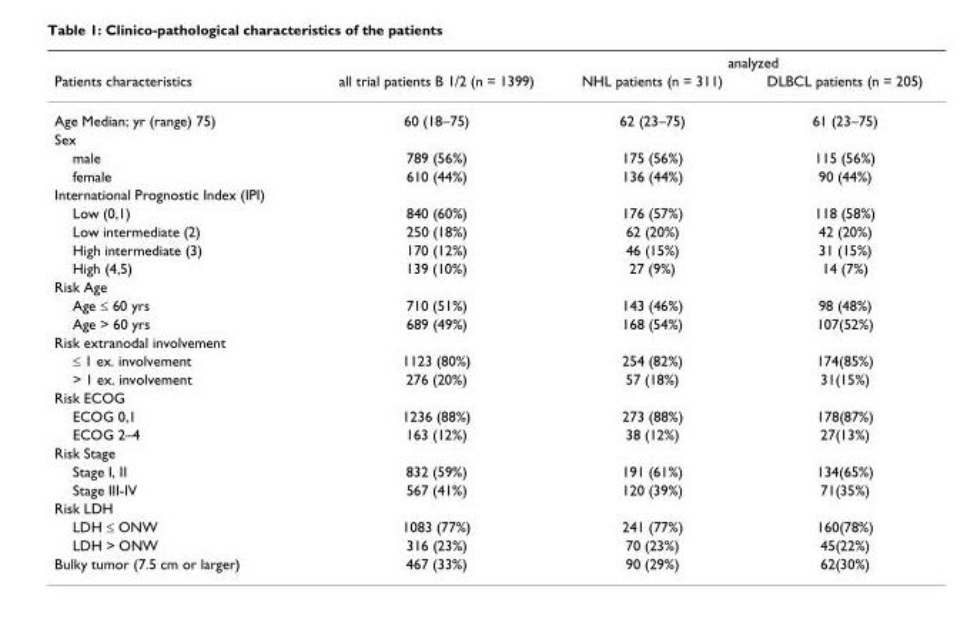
<table><thead><tr><td rowspan="2">Patients characteristics</td><td rowspan="2">all trial patients B 1/2 (n = 1399)</td><td colspan="2">analyzed</td></tr><tr><td>NHL patients (n = 311)</td><td>DLBCL patients (n = 205)</td></tr></thead><tbody><tr><td>Age Median; yr (range) 75)</td><td>60 (18–75)</td><td>62 (23–75)</td><td>61 (23–75)</td></tr><tr><td colspan="4">Sex</td></tr><tr><td>male</td><td>789 (56%)</td><td>175 (56%)</td><td>115 (56%)</td></tr><tr><td>female</td><td>610 (44%)</td><td>136 (44%)</td><td>90 (44%)</td></tr><tr><td colspan="4">International Prognostic Index (IPI)</td></tr><tr><td>Low (0,1)</td><td>840 (60%)</td><td>176 (57%)</td><td>118 (58%)</td></tr><tr><td>Low intermediate (2)</td><td>250 (18%)</td><td>62 (20%)</td><td>42 (20%)</td></tr><tr><td>High intermediate (3)</td><td>170 (12%)</td><td>46 (15%)</td><td>31 (15%)</td></tr><tr><td>High (4,5)</td><td>139 (10%)</td><td>27 (9%)</td><td>14 (7%)</td></tr><tr><td colspan="4">Risk Age</td></tr><tr><td>Age ≤ 60 yrs</td><td>710 (51%)</td><td>143 (46%)</td><td>98 (48%)</td></tr><tr><td>Age &gt; 60 yrs</td><td>689 (49%)</td><td>168 (54%)</td><td>107(52%)</td></tr><tr><td colspan="4">Risk extranodal involvement</td></tr><tr><td>≤ 1 ex. involvement</td><td>1123 (80%)</td><td>254 (82%)</td><td>174(85%)</td></tr><tr><td>&gt; 1 ex. involvement</td><td>276 (20%)</td><td>57 (18%)</td><td>31(15%)</td></tr><tr><td colspan="4">Risk ECOG</td></tr><tr><td>ECOG 0,1</td><td>1236 (88%)</td><td>273 (88%)</td><td>178(87%)</td></tr><tr><td>ECOG 2–4</td><td>163 (12%)</td><td>38 (12%)</td><td>27(13%)</td></tr><tr><td colspan="4">Risk Stage</td></tr><tr><td>Stage I, II</td><td>832 (59%)</td><td>191 (61%)</td><td>134(65%)</td></tr><tr><td>Stage III-IV</td><td>567 (41%)</td><td>120 (39%)</td><td>71(35%)</td></tr><tr><td colspan="4">Risk LDH</td></tr><tr><td>LDH ≤ ONW</td><td>1083 (77%)</td><td>241 (77%)</td><td>160(78%)</td></tr><tr><td>LDH &gt; ONW</td><td>316 (23%)</td><td>70 (23%)</td><td>45(22%)</td></tr><tr><td>Bulky tumor (7.5 cm or larger)</td><td>467 (33%)</td><td>90 (29%)</td><td>62(30%)</td></tr></tbody></table>